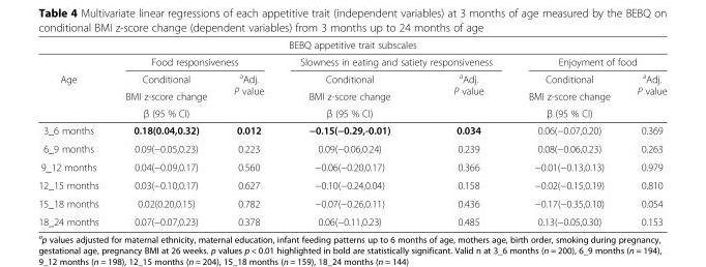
<table><thead><tr><td colspan="7">BEBQ appetitive trait subscales</td></tr><tr><td rowspan="4">Age</td><td colspan="2">Food responsiveness</td><td colspan="2">Slowness in eating and satiety responsiveness</td><td colspan="2">Enjoyment of food</td></tr><tr><td rowspan="3">Conditional BMI z-score change β (95 % CI)</td><td rowspan="3"><sup>a</sup>Adj. P value</td><td rowspan="3">Conditional BMI z-score change β (95 % CI)</td><td rowspan="3"><sup>a</sup>Adj. P value</td><td rowspan="3">Conditional BMI z-score change β (95 % CI)</td><td rowspan="3"><sup>a</sup>Adj. P value</td></tr><tr></tr><tr></tr></thead><tbody><tr><td>3_6 months</td><td>0.18(0.04,0.32)</td><td>0.012</td><td>−0.15(−0.29,-0.01)</td><td>0.034</td><td>0.06(−0.07,0.20)</td><td>0.369</td></tr><tr><td>6_9 months</td><td>0.09(−0.05,0.23)</td><td>0.223</td><td>0.09(−0.06,0.24)</td><td>0.239</td><td>0.08(−0.06,0.23)</td><td>0.263</td></tr><tr><td>9_12 months</td><td>0.04(−0.09,0.17)</td><td>0.560</td><td>−0.06(−0.20,0.17)</td><td>0.366</td><td>−0.01(−0.13,0.13)</td><td>0.979</td></tr><tr><td>12_15 months</td><td>0.03(−0.10,0.17)</td><td>0.627</td><td>−0.10(−0.24,0.04)</td><td>0.158</td><td>−0.02(−0.15,0.19)</td><td>0.810</td></tr><tr><td>15_18 months</td><td>0.02(0.20,0.15)</td><td>0.782</td><td>−0.07(−0.26,0.11)</td><td>0.436</td><td>−0.17(−0.35,0.10)</td><td>0.054</td></tr><tr><td>18_24 months</td><td>0.07(−0.07,0.23)</td><td>0.378</td><td>0.06(−0.11,0.23)</td><td>0.485</td><td>0.13(−0.05,0.30)</td><td>0.153</td></tr></tbody></table>